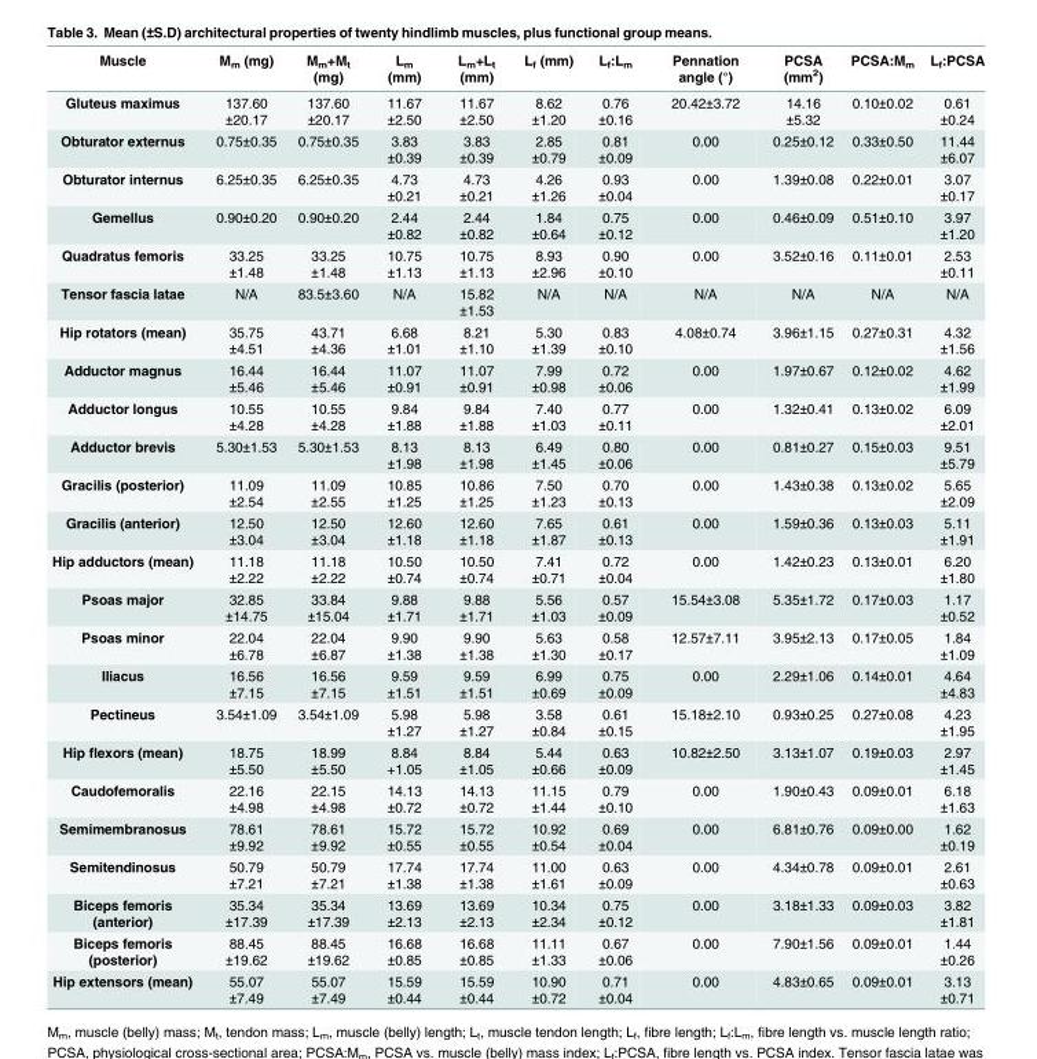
<table><thead><tr><td>Muscle</td><td>M<sub>m</sub> (mg)</td><td>M<sub>m</sub>+M<sub>t</sub> (mg)</td><td>L<sub>m</sub> (mm)</td><td>L<sub>m</sub>+L<sub>t</sub> (mm)</td><td>L<sub>f</sub> (mm)</td><td>L<sub>f</sub>:L<sub>m</sub></td><td>Pennation angle (°)</td><td>PCSA (mm<sup>2</sup>)</td><td>PCSA:M<sub>m</sub></td><td>L<sub>f</sub>:PCSA</td></tr></thead><tbody><tr><td>Gluteus maximus</td><td>137.60 ±20.17</td><td>137.60 ±20.17</td><td>11.67 ±2.50</td><td>11.67 ±2.50</td><td>8.62 ±1.20</td><td>0.76 ±0.16</td><td>20.42±3.72</td><td>14.16 ±5.32</td><td>0.10±0.02</td><td>0.61 ±0.24</td></tr><tr><td>Obturator externus</td><td>0.75±0.35</td><td>0.75±0.35</td><td>3.83 ±0.39</td><td>3.83 ±0.39</td><td>2.85 ±0.79</td><td>0.81 ±0.09</td><td>0.00</td><td>0.25±0.12</td><td>0.33±0.50</td><td>11.44 ±6.07</td></tr><tr><td>Obturator internus</td><td>6.25±0.35</td><td>6.25±0.35</td><td>4.73 ±0.21</td><td>4.73 ±0.21</td><td>4.26 ±1.26</td><td>0.93 ±0.04</td><td>0.00</td><td>1.39±0.08</td><td>0.22±0.01</td><td>3.07 ±0.17</td></tr><tr><td>Gemellus</td><td>0.90±0.20</td><td>0.90±0.20</td><td>2.44 ±0.82</td><td>2.44 ±0.82</td><td>1.84 ±0.64</td><td>0.75 ±0.12</td><td>0.00</td><td>0.46±0.09</td><td>0.51±0.10</td><td>3.97 ±1.20</td></tr><tr><td>Quadratus femoris</td><td>33.25 ±1.48</td><td>33.25 ±1.48</td><td>10.75 ±1.13</td><td>10.75 ±1.13</td><td>8.93 ±2.96</td><td>0.90 ±0.10</td><td>0.00</td><td>3.52±0.16</td><td>0.11±0.01</td><td>2.53 ±0.11</td></tr><tr><td>Tensor fascia latae</td><td>N/A</td><td>83.5±3.60</td><td>N/A</td><td>15.82 ±1.53</td><td>N/A</td><td>N/A</td><td>N/A</td><td>N/A</td><td>N/A</td><td>N/A</td></tr><tr><td>Hip rotators (mean)</td><td>35.75 ±4.51</td><td>43.71 ±4.36</td><td>6.68 ±1.01</td><td>8.21 ±1.10</td><td>5.30 ±1.39</td><td>0.83 ±0.10</td><td>4.08±0.74</td><td>3.96±1.15</td><td>0.27±0.31</td><td>4.32 ±1.56</td></tr><tr><td>Adductor magnus</td><td>16.44 ±5.46</td><td>16.44 ±5.46</td><td>11.07 ±0.91</td><td>11.07 ±0.91</td><td>7.99 ±0.98</td><td>0.72 ±0.06</td><td>0.00</td><td>1.97±0.67</td><td>0.12±0.02</td><td>4.62 ±1.99</td></tr><tr><td>Adductor longus</td><td>10.55 ±4.28</td><td>10.55 ±4.28</td><td>9.84 ±1.88</td><td>9.84 ±1.88</td><td>7.40 ±1.03</td><td>0.77 ±0.11</td><td>0.00</td><td>1.32±0.41</td><td>0.13±0.02</td><td>6.09 ±2.01</td></tr><tr><td>Adductor brevis</td><td>5.30±1.53</td><td>5.30±1.53</td><td>8.13 ±1.98</td><td>8.13 ±1.98</td><td>6.49 ±1.45</td><td>0.80 ±0.06</td><td>0.00</td><td>0.81±0.27</td><td>0.15±0.03</td><td>9.51 ±5.79</td></tr><tr><td>Gracilis (posterior)</td><td>11.09 ±2.54</td><td>11.09 ±2.55</td><td>10.85 ±1.25</td><td>10.86 ±1.25</td><td>7.50 ±1.23</td><td>0.70 ±0.13</td><td>0.00</td><td>1.43±0.38</td><td>0.13±0.02</td><td>5.65 ±2.09</td></tr><tr><td>Gracilis (anterior)</td><td>12.50 ±3.04</td><td>12.50 ±3.04</td><td>12.60 ±1.18</td><td>12.60 ±1.18</td><td>7.65 ±1.87</td><td>0.61 ±0.13</td><td>0.00</td><td>1.59±0.36</td><td>0.13±0.03</td><td>5.11 ±1.91</td></tr><tr><td>Hip adductors (mean)</td><td>11.18 ±2.22</td><td>11.18 ±2.22</td><td>10.50 ±0.74</td><td>10.50 ±0.74</td><td>7.41 ±0.71</td><td>0.72 ±0.04</td><td>0.00</td><td>1.42±0.23</td><td>0.13±0.01</td><td>6.20 ±1.80</td></tr><tr><td>Psoas major</td><td>32.85 ±14.75</td><td>33.84 ±15.04</td><td>9.88 ±1.71</td><td>9.88 ±1.71</td><td>5.56 ±1.03</td><td>0.57 ±0.09</td><td>15.54±3.08</td><td>5.35±1.72</td><td>0.17±0.03</td><td>1.17 ±0.52</td></tr><tr><td>Psoas minor</td><td>22.04 ±6.78</td><td>22.04 ±6.87</td><td>9.90 ±1.38</td><td>9.90 ±1.38</td><td>5.63 ±1.30</td><td>0.58 ±0.17</td><td>12.57±7.11</td><td>3.95±2.13</td><td>0.17±0.05</td><td>1.84 ±1.09</td></tr><tr><td>Iliacus</td><td>16.56 ±7.15</td><td>16.56 ±7.15</td><td>9.59 ±1.51</td><td>9.59 ±1.51</td><td>6.99 ±0.69</td><td>0.75 ±0.09</td><td>0.00</td><td>2.29±1.06</td><td>0.14±0.01</td><td>4.64 ±4.83</td></tr><tr><td>Pectineus</td><td>3.54±1.09</td><td>3.54±1.09</td><td>5.98 ±1.27</td><td>5.98 ±1.27</td><td>3.58 ±0.84</td><td>0.61 ±0.15</td><td>15.18±2.10</td><td>0.93±0.25</td><td>0.27±0.08</td><td>4.23 ±1.95</td></tr><tr><td>Hip flexors (mean)</td><td>18.75 ±5.50</td><td>18.99 ±5.50</td><td>8.84 +1.05</td><td>8.84 ±1.05</td><td>5.44 ±0.66</td><td>0.63 ±0.09</td><td>10.82±2.50</td><td>3.13±1.07</td><td>0.19±0.03</td><td>2.97 ±1.45</td></tr><tr><td>Caudofemoralis</td><td>22.16 ±4.98</td><td>22.15 ±4.98</td><td>14.13 ±0.72</td><td>14.13 ±0.72</td><td>11.15 ±1.44</td><td>0.79 ±0.10</td><td>0.00</td><td>1.90±0.43</td><td>0.09±0.01</td><td>6.18 ±1.63</td></tr><tr><td>Semimembranosus</td><td>78.61 ±9.92</td><td>78.61 ±9.92</td><td>15.72 ±0.55</td><td>15.72 ±0.55</td><td>10.92 ±0.54</td><td>0.69 ±0.04</td><td>0.00</td><td>6.81±0.76</td><td>0.09±0.00</td><td>1.62 ±0.19</td></tr><tr><td>Semitendinosus</td><td>50.79 ±7.21</td><td>50.79 ±7.21</td><td>17.74 ±1.38</td><td>17.74 ±1.38</td><td>11.00 ±1.61</td><td>0.63 ±0.09</td><td>0.00</td><td>4.34±0.78</td><td>0.09±0.01</td><td>2.61 ±0.63</td></tr><tr><td>Biceps femoris (anterior)</td><td>35.34 ±17.39</td><td>35.34 ±17.39</td><td>13.69 ±2.13</td><td>13.69 ±2.13</td><td>10.34 ±2.34</td><td>0.75 ±0.12</td><td>0.00</td><td>3.18±1.33</td><td>0.09±0.03</td><td>3.82 ±1.81</td></tr><tr><td>Biceps femoris (posterior)</td><td>88.45 ±19.62</td><td>88.45 ±19.62</td><td>16.68 ±0.85</td><td>16.68 ±0.85</td><td>11.11 ±1.33</td><td>0.67 ±0.06</td><td>0.00</td><td>7.90±1.56</td><td>0.09±0.01</td><td>1.44 ±0.26</td></tr><tr><td>Hip extensors (mean)</td><td>55.07 ±7.49</td><td>55.07 ±7.49</td><td>15.59 ±0.44</td><td>15.59 ±0.44</td><td>10.90 ±0.72</td><td>0.71 ±0.04</td><td>0.00</td><td>4.83±0.65</td><td>0.09±0.01</td><td>3.13 ±0.71</td></tr></tbody></table>